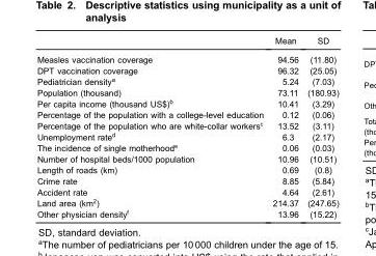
<table><thead><tr><td></td><td>Mean</td><td>SD</td></tr></thead><tbody><tr><td>Measles vaccination coverage</td><td>94.56</td><td>(11.80)</td></tr><tr><td>DPT vaccination coverage</td><td>96.32</td><td>(25.05)</td></tr><tr><td>Pediatrician density<sup>a</sup></td><td>5.24</td><td>(7.03)</td></tr><tr><td>Population (thousand)</td><td>73.11</td><td>(180.93)</td></tr><tr><td>Per capita income (thousand US$)<sup>b</sup></td><td>10.41</td><td>(3.29)</td></tr><tr><td>Percentage of the population with a college-level education</td><td>0.12</td><td>(0.06)</td></tr><tr><td>Percentage of the population who are white-collar workers<sup>c</sup></td><td>13.52</td><td>(3.11)</td></tr><tr><td>Unemployment rate<sup>d</sup></td><td>6.3</td><td>(2.17)</td></tr><tr><td>The incidence of single motherhood<sup>e</sup></td><td>0.06</td><td>(0.03)</td></tr><tr><td>Number of hospital beds/1000 population</td><td>10.96</td><td>(10.51)</td></tr><tr><td>Length of roads (km)</td><td>0.69</td><td>(0.8)</td></tr><tr><td>Crime rate</td><td>8.85</td><td>(5.84)</td></tr><tr><td>Accident rate</td><td>4.64</td><td>(2.61)</td></tr><tr><td>Land area (km<sup>2</sup>)</td><td>214.37</td><td>(247.65)</td></tr><tr><td>Other physician density<sup>f</sup></td><td>13.96</td><td>(15.22)</td></tr></tbody></table>